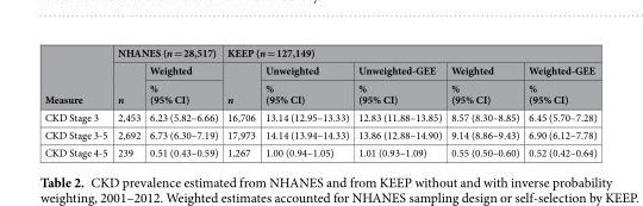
<table><thead><tr><td rowspan="3">Measure</td><td colspan="2">NHANES (n = 28,517)</td><td colspan="5">KEEP (n = 127,149)</td></tr><tr><td rowspan="2">n</td><td rowspan="2">Weighted % (95% CI)</td><td rowspan="2">n</td><td rowspan="2">Unweighted % (95% CI)</td><td rowspan="2">Unweighted-GEE % (95% CI)</td><td rowspan="2">Weighted % (95% CI)</td><td rowspan="2">Weighted-GEE % (95% CI)</td></tr><tr></tr></thead><tbody><tr><td>CKD Stage 3</td><td>2,453</td><td>6.23 (5.82–6.66)</td><td>16,706</td><td>13.14 (12.95–13.33)</td><td>12.83 (11.88–13.85)</td><td>8.57 (8.30–8.85)</td><td>6.45 (5.70–7.28)</td></tr><tr><td>CKD Stage 3-5</td><td>2,692</td><td>6.73 (6.30–7.19)</td><td>17,973</td><td>14.14 (13.94–14.33)</td><td>13.86 (12.88–14.90)</td><td>9.14 (8.86–9.43)</td><td>6.90 (6.12–7.78)</td></tr><tr><td>CKD Stage 4-5</td><td>239</td><td>0.51 (0.43–0.59)</td><td>1,267</td><td>1.00 (0.94–1.05)</td><td>1.01 (0.93–1.09)</td><td>0.55 (0.50–0.60)</td><td>0.52 (0.42–0.64)</td></tr></tbody></table>